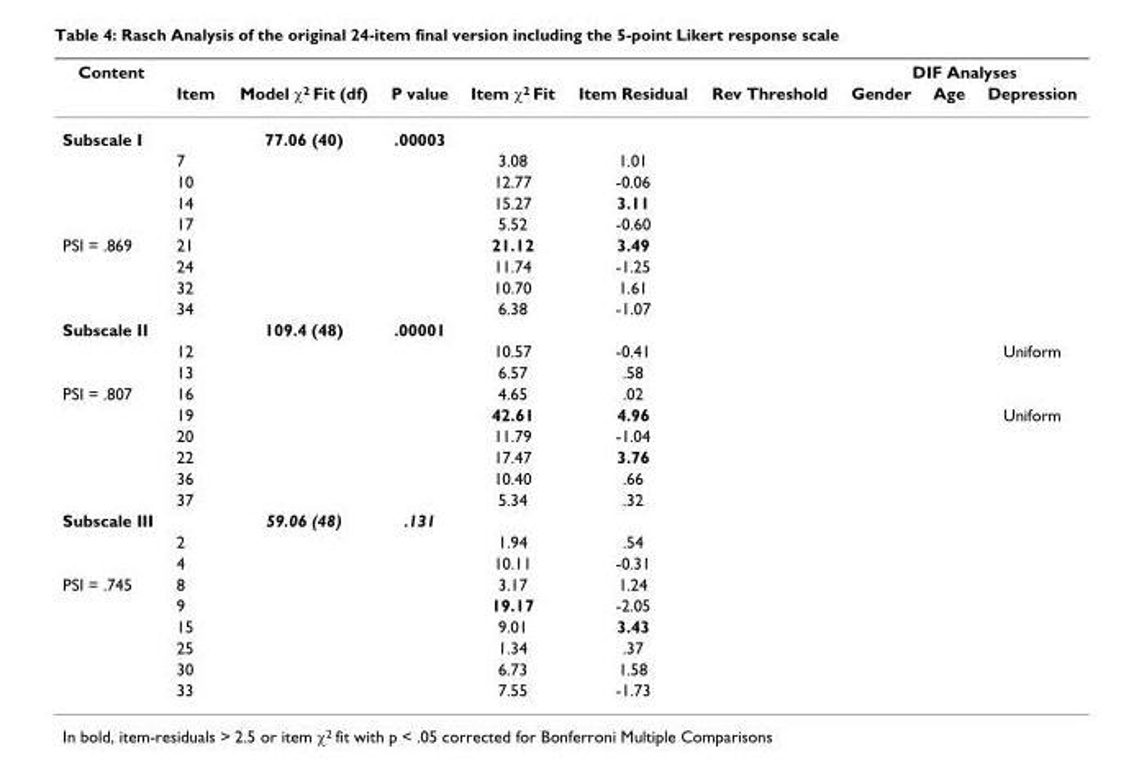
<table><thead><tr><td rowspan="2">Content</td><td rowspan="2">Item</td><td rowspan="2">Model χ2 Fit (df)</td><td rowspan="2">P value</td><td rowspan="2">Item χ2 Fit</td><td rowspan="2">Item Residual</td><td rowspan="2">Rev Threshold</td><td colspan="3">DIF Analyses</td></tr><tr><td>Gender</td><td>Age</td><td>Depression</td></tr></thead><tbody><tr><td rowspan="5">Subscale I</td><td></td><td>77.06 (40)</td><td>.00003</td><td></td><td></td><td></td><td></td><td></td><td></td></tr><tr><td>7</td><td></td><td></td><td>3.08</td><td>1.01</td><td></td><td></td><td></td><td></td></tr><tr><td>10</td><td></td><td></td><td>12.77</td><td>-0.06</td><td></td><td></td><td></td><td></td></tr><tr><td>14</td><td></td><td></td><td>15.27</td><td>3.11</td><td></td><td></td><td></td><td></td></tr><tr><td>17</td><td></td><td></td><td>5.52</td><td>-0.60</td><td></td><td></td><td></td><td></td></tr><tr><td rowspan="4">PSI = .869</td><td>21</td><td></td><td></td><td>21.12</td><td>3.49</td><td></td><td></td><td></td><td></td></tr><tr><td>24</td><td></td><td></td><td>11.74</td><td>-1.25</td><td></td><td></td><td></td><td></td></tr><tr><td>32</td><td></td><td></td><td>10.70</td><td>1.61</td><td></td><td></td><td></td><td></td></tr><tr><td>34</td><td></td><td></td><td>6.38</td><td>-1.07</td><td></td><td></td><td></td><td></td></tr><tr><td rowspan="3">Subscale II</td><td></td><td>109.4 (48)</td><td>.00001</td><td></td><td></td><td></td><td></td><td></td><td></td></tr><tr><td>12</td><td></td><td></td><td>10.57</td><td>-0.41</td><td></td><td></td><td></td><td>Uniform</td></tr><tr><td>13</td><td></td><td></td><td>6.57</td><td>.58</td><td></td><td></td><td></td><td></td></tr><tr><td rowspan="6">PSI = .807</td><td>16</td><td></td><td></td><td>4.65</td><td>.02</td><td></td><td></td><td></td><td></td></tr><tr><td>19</td><td></td><td></td><td>42.61</td><td>4.96</td><td></td><td></td><td></td><td>Uniform</td></tr><tr><td>20</td><td></td><td></td><td>11.79</td><td>-1.04</td><td></td><td></td><td></td><td></td></tr><tr><td>22</td><td></td><td></td><td>17.47</td><td>3.76</td><td></td><td></td><td></td><td></td></tr><tr><td>36</td><td></td><td></td><td>10.40</td><td>.66</td><td></td><td></td><td></td><td></td></tr><tr><td>37</td><td></td><td></td><td>5.34</td><td>.32</td><td></td><td></td><td></td><td></td></tr><tr><td rowspan="3">Subscale III</td><td></td><td>59.06 (48)</td><td>.131</td><td></td><td></td><td></td><td></td><td></td><td></td></tr><tr><td>2</td><td></td><td></td><td>1.94</td><td>.54</td><td></td><td></td><td></td><td></td></tr><tr><td>4</td><td></td><td></td><td>10.11</td><td>-0.31</td><td></td><td></td><td></td><td></td></tr><tr><td rowspan="6">PSI = .745</td><td>8</td><td></td><td></td><td>3.17</td><td>1.24</td><td></td><td></td><td></td><td></td></tr><tr><td>9</td><td></td><td></td><td>19.17</td><td>-2.05</td><td></td><td></td><td></td><td></td></tr><tr><td>15</td><td></td><td></td><td>9.01</td><td>3.43</td><td></td><td></td><td></td><td></td></tr><tr><td>25</td><td></td><td></td><td>1.34</td><td>.37</td><td></td><td></td><td></td><td></td></tr><tr><td>30</td><td></td><td></td><td>6.73</td><td>1.58</td><td></td><td></td><td></td><td></td></tr><tr><td>33</td><td></td><td></td><td>7.55</td><td>-1.73</td><td></td><td></td><td></td><td></td></tr></tbody></table>